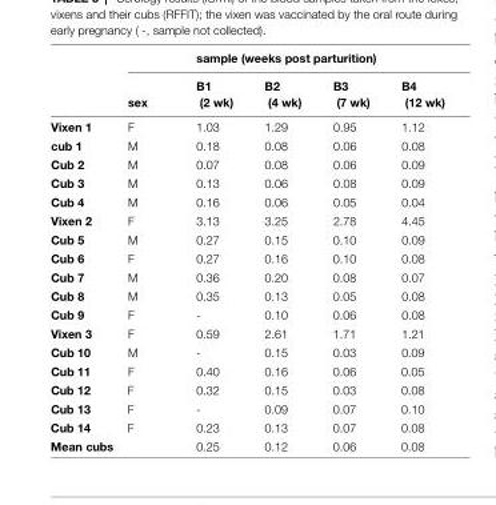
<table><thead><tr><td rowspan="2"></td><td rowspan="2">sex</td><td colspan="4">sample (weeks post parturition)</td></tr><tr><td>B1 (2 wk)</td><td>B2 (4 wk)</td><td>B3 (7 wk)</td><td>B4 (12 wk)</td></tr></thead><tbody><tr><td>Vixen 1</td><td>F</td><td>1.03</td><td>1.29</td><td>0.95</td><td>1.12</td></tr><tr><td>cub 1</td><td>M</td><td>0.18</td><td>0.08</td><td>0.06</td><td>0.08</td></tr><tr><td>cub 2</td><td>M</td><td>0.07</td><td>0.08</td><td>0.06</td><td>0.09</td></tr><tr><td>cub 3</td><td>M</td><td>0.13</td><td>0.06</td><td>0.08</td><td>0.09</td></tr><tr><td>cub 4</td><td>M</td><td>0.16</td><td>0.06</td><td>0.05</td><td>0.04</td></tr><tr><td>Vixen 2</td><td>F</td><td>3.13</td><td>3.25</td><td>2.78</td><td>4.45</td></tr><tr><td>cub 5</td><td>M</td><td>0.27</td><td>0.15</td><td>0.10</td><td>0.09</td></tr><tr><td>cub 6</td><td>F</td><td>0.27</td><td>0.16</td><td>0.10</td><td>0.08</td></tr><tr><td>cub 7</td><td>M</td><td>0.36</td><td>0.20</td><td>0.08</td><td>0.07</td></tr><tr><td>cub 8</td><td>M</td><td>0.35</td><td>0.13</td><td>0.05</td><td>0.08</td></tr><tr><td>cub 9</td><td>F</td><td>-</td><td>0.10</td><td>0.06</td><td>0.08</td></tr><tr><td>Vixen 3</td><td>F</td><td>0.59</td><td>2.61</td><td>1.71</td><td>1.21</td></tr><tr><td>cub 10</td><td>M</td><td>-</td><td>0.15</td><td>0.03</td><td>0.09</td></tr><tr><td>cub 11</td><td>F</td><td>0.40</td><td>0.16</td><td>0.06</td><td>0.05</td></tr><tr><td>cub 12</td><td>F</td><td>0.32</td><td>0.15</td><td>0.03</td><td>0.08</td></tr><tr><td>cub 13</td><td>F</td><td>-</td><td>0.09</td><td>0.07</td><td>0.10</td></tr><tr><td>cub 14</td><td>F</td><td>0.23</td><td>0.13</td><td>0.07</td><td>0.08</td></tr><tr><td>Mean cubs</td><td></td><td>0.25</td><td>0.12</td><td>0.06</td><td>0.08</td></tr></tbody></table>